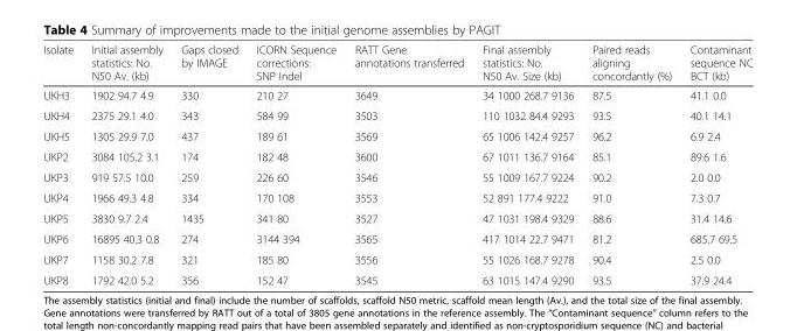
<table><thead><tr><td>Isolate</td><td>Initial assembly statistics: No. N50 Av. (kb)</td><td>Gaps closed by IMAGE</td><td>ICORN Sequence corrections: SNP Indel</td><td>RATT Gene annotations transferred</td><td>Final assembly statistics: No. N50 Av. Size (kb)</td><td>Paired reads aligning concordantly (%)</td><td>Contaminant sequence NC BCT (kb)</td></tr></thead><tbody><tr><td>UKH3</td><td>1902 94.7 4.9</td><td>330</td><td>210 27</td><td>3649</td><td>34 1000 268.7 9136</td><td>87.5</td><td>41.1 0.0</td></tr><tr><td>UKH4</td><td>2375 29.1 4.0</td><td>343</td><td>584 99</td><td>3503</td><td>110 1032 84.4 9293</td><td>93.5</td><td>40.1 14.1</td></tr><tr><td>UKH5</td><td>1305 29.9 7.0</td><td>437</td><td>189 61</td><td>3569</td><td>65 1006 142.4 9257</td><td>96.2</td><td>6.9 2.4</td></tr><tr><td>UKP2</td><td>3084 105.2 3.1</td><td>174</td><td>182 48</td><td>3600</td><td>67 1011 136.7 9164</td><td>85.1</td><td>89.6 1.6</td></tr><tr><td>UKP3</td><td>919 57.5 10.0</td><td>259</td><td>226 60</td><td>3546</td><td>55 1009 167.7 9224</td><td>90.2</td><td>2.0 0.0</td></tr><tr><td>UKP4</td><td>1966 49.3 4.8</td><td>334</td><td>170 108</td><td>3553</td><td>52 891 177.4 9222</td><td>91.0</td><td>7.3 0.7</td></tr><tr><td>UKP5</td><td>3830 9.7 2.4</td><td>1435</td><td>341 80</td><td>3527</td><td>47 1031 198.4 9329</td><td>88.6</td><td>31.4 14.6</td></tr><tr><td>UKP6</td><td>16895 40.3 0.8</td><td>274</td><td>3144 394</td><td>3565</td><td>417 1014 22.7 9471</td><td>81.2</td><td>685.7 69.5</td></tr><tr><td>UKP7</td><td>1158 30.2 7.8</td><td>321</td><td>185 80</td><td>3556</td><td>55 1026 168.7 9278</td><td>90.4</td><td>2.5 0.0</td></tr><tr><td>UKP8</td><td>1792 42.0 5.2</td><td>356</td><td>152 47</td><td>3545</td><td>63 1015 147.4 9290</td><td>93.5</td><td>37.9 24.4</td></tr></tbody></table>